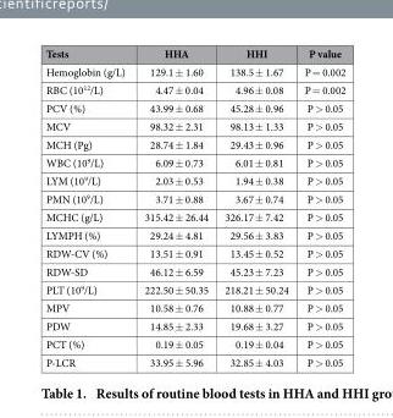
<table><thead><tr><td>Tests</td><td>HHA</td><td>HHI</td><td>P value</td></tr></thead><tbody><tr><td>Hemoglobin (g/L)</td><td>129.1 ± 1.60</td><td>138.5 ± 1.67</td><td>P = 0.002</td></tr><tr><td>RBC (10<sup>12</sup>/L)</td><td>4.47 ± 0.04</td><td>4.96 ± 0.08</td><td>P = 0.002</td></tr><tr><td>PCV (%)</td><td>43.99 ± 0.68</td><td>45.28 ± 0.96</td><td>P &gt; 0.05</td></tr><tr><td>MCV</td><td>98.32 ± 2.31</td><td>98.13 ± 1.33</td><td>P &gt; 0.05</td></tr><tr><td>MCH (Pg)</td><td>28.74 ± 1.84</td><td>29.43 ± 0.96</td><td>P &gt; 0.05</td></tr><tr><td>WBC (10<sup>9</sup>/L)</td><td>6.09 ± 0.73</td><td>6.01 ± 0.81</td><td>P &gt; 0.05</td></tr><tr><td>LYM (10<sup>9</sup>/L)</td><td>2.03 ± 0.53</td><td>1.94 ± 0.38</td><td>P &gt; 0.05</td></tr><tr><td>PMN (10<sup>9</sup>/L)</td><td>3.71 ± 0.88</td><td>3.67 ± 0.74</td><td>P &gt; 0.05</td></tr><tr><td>MCHC (g/L)</td><td>315.42 ± 26.44</td><td>326.17 ± 7.42</td><td>P &gt; 0.05</td></tr><tr><td>LYMPH (%)</td><td>29.24 ± 4.81</td><td>29.56 ± 3.83</td><td>P &gt; 0.05</td></tr><tr><td>RDW-CV (%)</td><td>13.51 ± 0.91</td><td>13.45 ± 0.52</td><td>P &gt; 0.05</td></tr><tr><td>RDW-SD</td><td>46.12 ± 6.59</td><td>45.23 ± 7.23</td><td>P &gt; 0.05</td></tr><tr><td>PLT (10<sup>9</sup>/L)</td><td>222.50 ± 50.35</td><td>218.21 ± 50.24</td><td>P &gt; 0.05</td></tr><tr><td>MPV</td><td>10.58 ± 0.76</td><td>10.88 ± 0.77</td><td>P &gt; 0.05</td></tr><tr><td>PDW</td><td>14.85 ± 2.33</td><td>19.68 ± 3.27</td><td>P &gt; 0.05</td></tr><tr><td>PCT (%)</td><td>0.19 ± 0.05</td><td>0.19 ± 0.04</td><td>P &gt; 0.05</td></tr><tr><td>P-LCR</td><td>33.95 ± 5.96</td><td>32.85 ± 4.03</td><td>P &gt; 0.05</td></tr></tbody></table>